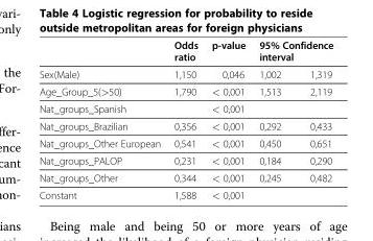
<table><thead><tr><td rowspan="2">Sex(Male)</td><td rowspan="2">Odds ratio 1,150</td><td rowspan="2">p-value 0,046</td><td colspan="2">95% Confidence interval</td></tr><tr><td>1,002</td><td>1,319</td></tr></thead><tbody><tr><td>Age_Group_5(&gt;50)</td><td>1,790</td><td>&lt; 0,001</td><td>1,513</td><td>2,119</td></tr><tr><td>Nat_groups_Spanish</td><td></td><td>&lt; 0,001</td><td></td><td></td></tr><tr><td>Nat_groups_Brazilian</td><td>0,356</td><td>&lt; 0,001</td><td>0,292</td><td>0,433</td></tr><tr><td>Nat_groups_Other European</td><td>0,541</td><td>&lt; 0,001</td><td>0,450</td><td>0,651</td></tr><tr><td>Nat_groups_PALOP</td><td>0,231</td><td>&lt; 0,001</td><td>0,184</td><td>0,290</td></tr><tr><td>Nat_groups_Other</td><td>0,344</td><td>&lt; 0,001</td><td>0,245</td><td>0,482</td></tr><tr><td>Constant</td><td>1,588</td><td>&lt; 0,001</td><td></td><td></td></tr></tbody></table>